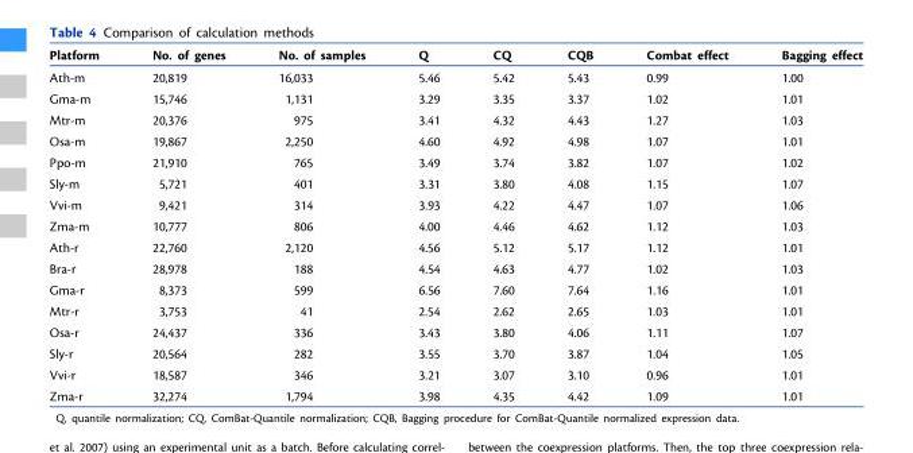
<table><thead><tr><td>Platform</td><td>No. of genes</td><td>No. of samples</td><td>Q</td><td>CQ</td><td>CQB</td><td>Combat effect</td><td>Bagging effect</td></tr></thead><tbody><tr><td>Ath-m</td><td>20,819</td><td>16,033</td><td>5.46</td><td>5.42</td><td>5.43</td><td>0.99</td><td>1.00</td></tr><tr><td>Gma-m</td><td>15,746</td><td>1,131</td><td>3.29</td><td>3.35</td><td>3.37</td><td>1.02</td><td>1.01</td></tr><tr><td>Mtr-m</td><td>20,376</td><td>975</td><td>3.41</td><td>4.32</td><td>4.43</td><td>1.27</td><td>1.03</td></tr><tr><td>Osa-m</td><td>19,867</td><td>2,250</td><td>4.60</td><td>4.92</td><td>4.98</td><td>1.07</td><td>1.01</td></tr><tr><td>Ppo-m</td><td>21,910</td><td>765</td><td>3.49</td><td>3.74</td><td>3.82</td><td>1.07</td><td>1.02</td></tr><tr><td>Sly-m</td><td>5,721</td><td>401</td><td>3.31</td><td>3.80</td><td>4.08</td><td>1.15</td><td>1.07</td></tr><tr><td>Vvi-m</td><td>9,421</td><td>314</td><td>3.93</td><td>4.22</td><td>4.47</td><td>1.07</td><td>1.06</td></tr><tr><td>Zma-m</td><td>10,777</td><td>806</td><td>4.00</td><td>4.46</td><td>4.62</td><td>1.12</td><td>1.03</td></tr><tr><td>Ath-r</td><td>22,760</td><td>2,120</td><td>4.56</td><td>5.12</td><td>5.17</td><td>1.12</td><td>1.01</td></tr><tr><td>Bra-r</td><td>28,978</td><td>188</td><td>4.54</td><td>4.63</td><td>4.77</td><td>1.02</td><td>1.03</td></tr><tr><td>Gma-r</td><td>8,373</td><td>599</td><td>6.56</td><td>7.60</td><td>7.64</td><td>1.16</td><td>1.01</td></tr><tr><td>Mtr-r</td><td>3,753</td><td>41</td><td>2.54</td><td>2.62</td><td>2.65</td><td>1.03</td><td>1.01</td></tr><tr><td>Osa-r</td><td>24,437</td><td>336</td><td>3.43</td><td>3.80</td><td>4.06</td><td>1.11</td><td>1.07</td></tr><tr><td>Sly-r</td><td>20,564</td><td>282</td><td>3.55</td><td>3.70</td><td>3.87</td><td>1.04</td><td>1.05</td></tr><tr><td>Vvi-r</td><td>18,587</td><td>346</td><td>3.21</td><td>3.07</td><td>3.10</td><td>0.96</td><td>1.01</td></tr><tr><td>Zma-r</td><td>32,274</td><td>1,794</td><td>3.98</td><td>4.35</td><td>4.42</td><td>1.09</td><td>1.01</td></tr></tbody></table>